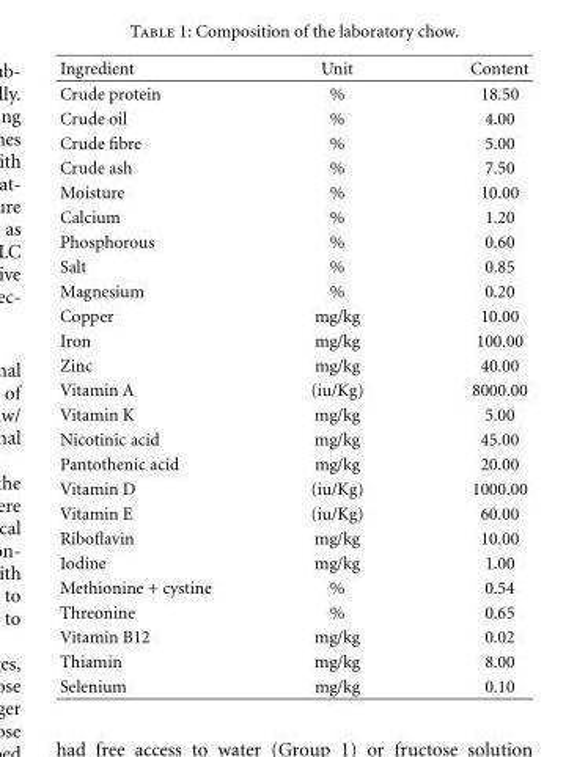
<table><thead><tr><td>Ingredient</td><td>Unit</td><td>Content</td></tr></thead><tbody><tr><td>Crude protein</td><td>%</td><td>18.50</td></tr><tr><td>Crude oil</td><td>%</td><td>4.00</td></tr><tr><td>Crude fibre</td><td>%</td><td>5.00</td></tr><tr><td>Crude ash</td><td>%</td><td>7.50</td></tr><tr><td>Moisture</td><td>%</td><td>10.00</td></tr><tr><td>Calcium</td><td>%</td><td>1.20</td></tr><tr><td>Phosphorous</td><td>%</td><td>0.60</td></tr><tr><td>Salt</td><td>%</td><td>0.85</td></tr><tr><td>Magnesium</td><td>%</td><td>0.20</td></tr><tr><td>Copper</td><td>mg/kg</td><td>10.00</td></tr><tr><td>Iron</td><td>mg/kg</td><td>100.00</td></tr><tr><td>Zinc</td><td>mg/kg</td><td>40.00</td></tr><tr><td>Vitamin A</td><td>(iu/Kg)</td><td>8000.00</td></tr><tr><td>Vitamin K</td><td>mg/kg</td><td>5.00</td></tr><tr><td>Nicotinic acid</td><td>mg/kg</td><td>45.00</td></tr><tr><td>Pantothenic acid</td><td>mg/kg</td><td>20.00</td></tr><tr><td>Vitamin D</td><td>(iu/Kg)</td><td>1000.00</td></tr><tr><td>Vitamin E</td><td>(iu/Kg)</td><td>60.00</td></tr><tr><td>Riboflavin</td><td>mg/kg</td><td>10.00</td></tr><tr><td>Iodine</td><td>mg/kg</td><td>1.00</td></tr><tr><td>Methionine + cystine</td><td>%</td><td>0.54</td></tr><tr><td>Threonine</td><td>%</td><td>0.65</td></tr><tr><td>Vitamin B12</td><td>mg/kg</td><td>0.02</td></tr><tr><td>Thiamin</td><td>mg/kg</td><td>8.00</td></tr><tr><td>Selenium</td><td>mg/kg</td><td>0.10</td></tr></tbody></table>